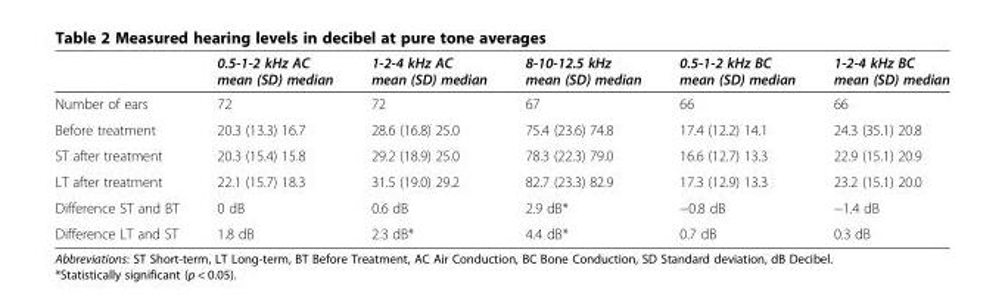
<table><thead><tr><td></td><td>0.5-1-2 kHz AC mean (SD) median</td><td>1-2-4 kHz AC mean (SD) median</td><td>8-10-12.5 kHz mean (SD) median</td><td>0.5-1-2 kHz BC mean (SD) median</td><td>1-2-4 kHz BC mean (SD) median</td></tr></thead><tbody><tr><td>Number of ears</td><td>72</td><td>72</td><td>67</td><td>66</td><td>66</td></tr><tr><td>Before treatment</td><td>20.3 (13.3) 16.7</td><td>28.6 (16.8) 25.0</td><td>75.4 (23.6) 74.8</td><td>17.4 (12.2) 14.1</td><td>24.3 (35.1) 20.8</td></tr><tr><td>ST after treatment</td><td>20.3 (15.4) 15.8</td><td>29.2 (18.9) 25.0</td><td>78.3 (22.3) 79.0</td><td>16.6 (12.7) 13.3</td><td>22.9 (15.1) 20.9</td></tr><tr><td>LT after treatment</td><td>22.1 (15.7) 18.3</td><td>31.5 (19.0) 29.2</td><td>82.7 (23.3) 82.9</td><td>17.3 (12.9) 13.3</td><td>23.2 (15.1) 20.0</td></tr><tr><td>Difference ST and BT</td><td>0 dB</td><td>0.6 dB</td><td>2.9 dB*</td><td>−0.8 dB</td><td>−1.4 dB</td></tr><tr><td>Difference LT and ST</td><td>1.8 dB</td><td>2.3 dB*</td><td>4.4 dB*</td><td>0.7 dB</td><td>0.3 dB</td></tr></tbody></table>